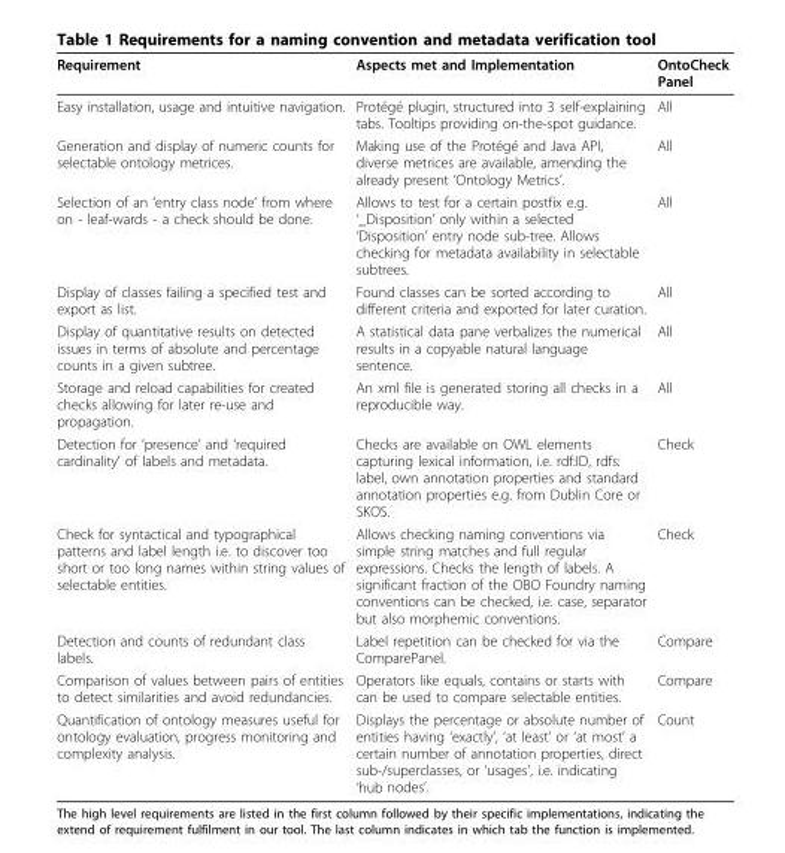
<table><thead><tr><td>Requirement</td><td>Aspects met and Implementation</td><td>OntoCheck Panel</td></tr></thead><tbody><tr><td>Easy installation, usage and intuitive navigation.</td><td>Protégé plugin, structured into 3 self-explaining tabs. Tooltips providing on-the-spot guidance.</td><td>All</td></tr><tr><td>Generation and display of numeric counts for selectable ontology metrices.</td><td>Making use of the Protégé and Java API, diverse metrices are available, amending the already present ‘Ontology Metrics’.</td><td>All</td></tr><tr><td>Selection of an ‘entry class node’ from where on - leaf-wards - a check should be done.</td><td>Allows to test for a certain postfix e.g. ‘_Disposition’ only within a selected ‘Disposition’ entry node sub-tree. Allows checking for metadata availability in selectable subtrees.</td><td>All</td></tr><tr><td>Display of classes failing a specified test and export as list.</td><td>Found classes can be sorted according to different criteria and exported for later curation.</td><td>All</td></tr><tr><td>Display of quantitative results on detected issues in terms of absolute and percentage counts in a given subtree.</td><td>A statistical data pane verbalizes the numerical results in a copyable natural language sentence.</td><td>All</td></tr><tr><td>Storage and reload capabilities for created checks allowing for later re-use and propagation.</td><td>An xml file is generated storing all checks in a reproducible way.</td><td>All</td></tr><tr><td>Detection for ‘presence’ and ‘required cardinality’ of labels and metadata.</td><td>Checks are available on OWL elements capturing lexical information, i.e. rdf:ID, rdfs: label, own annotation properties and standard annotation properties e.g. from Dublin Core or SKOS.</td><td>Check</td></tr><tr><td>Check for syntactical and typographical patterns and label length i.e. to discover too short or too long names within string values of selectable entities.</td><td>Allows checking naming conventions via simple string matches and full regular expressions. Checks the length of labels. A significant fraction of the OBO Foundry naming conventions can be checked, i.e. case, separator but also morphemic conventions.</td><td>Check</td></tr><tr><td>Detection and counts of redundant class labels.</td><td>Label repetition can be checked for via the ComparePanel.</td><td>Compare</td></tr><tr><td>Comparison of values between pairs of entities to detect similarities and avoid redundancies.</td><td>Operators like equals, contains or starts with can be used to compare selectable entities.</td><td>Compare</td></tr><tr><td>Quantification of ontology measures useful for ontology evaluation, progress monitoring and complexity analysis.</td><td>Displays the percentage or absolute number of entities having ‘exactly’, ‘at least’ or ‘at most’ a certain number of annotation properties, direct sub-/superclasses, or ‘usages’, i.e. indicating ‘hub nodes’.</td><td>Count</td></tr></tbody></table>